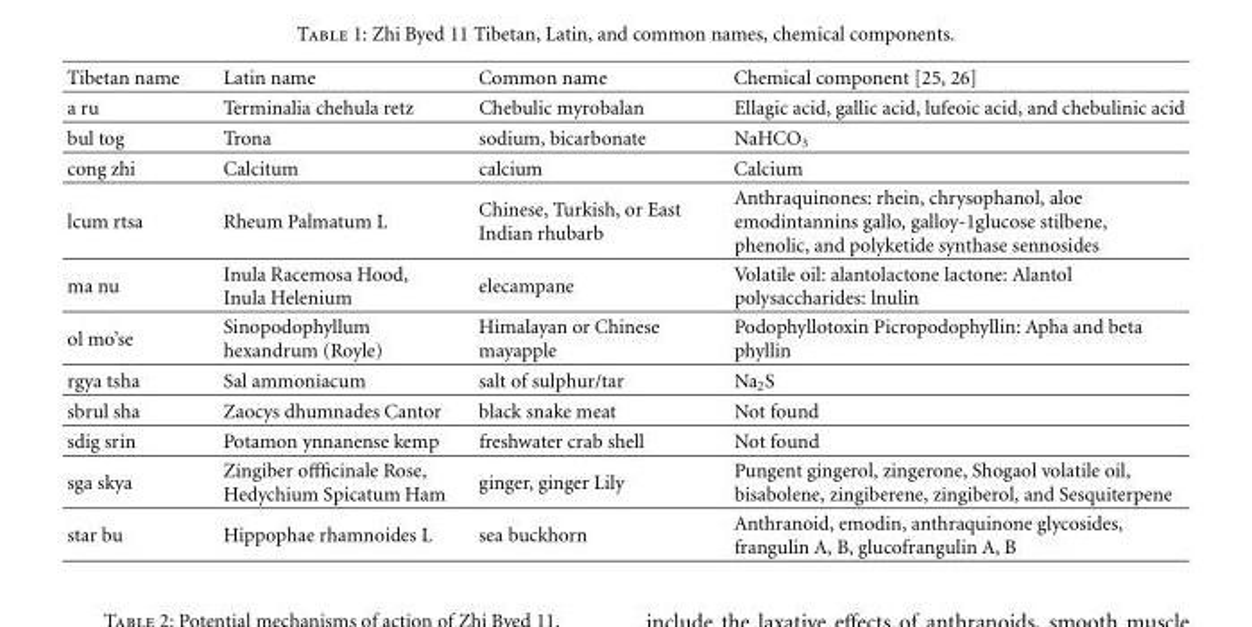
<table><thead><tr><td>Tibetan name</td><td>Latin name</td><td>Common name</td><td>Chemical component [25, 26]</td></tr></thead><tbody><tr><td>a ru</td><td>Terminalia chehula retz</td><td>Chebulic myrobalan</td><td>Ellagic acid, gallic acid, lufeoic acid, and chebulinic acid</td></tr><tr><td>bul tog</td><td>Trona</td><td>sodium, bicarbonate</td><td>NaHCO3</td></tr><tr><td>cong zhi</td><td>Calcitum</td><td>calcium</td><td>Calcium</td></tr><tr><td>lcum rtsa</td><td>Rheum Palmatum L</td><td>Chinese, Turkish, or East Indian rhubarb</td><td>Anthraquinones: rhein, chrysophanol, aloe emodintannins gallo, galloy-1glucose stilbene, phenolic, and polyketide synthase sennosides</td></tr><tr><td>ma nu</td><td>Inula Racemosa Hood, Inula Helenium</td><td>elecampane</td><td>Volatile oil: alantolactone lactone: Alantol polysaccharides: lnulin</td></tr><tr><td>ol mo’se</td><td>Sinopodophyllum hexandrum (Royle)</td><td>Himalayan or Chinese mayapple</td><td>Podophyllotoxin Picropodophyllin: Apha and beta phyllin</td></tr><tr><td>rgya tsha</td><td>Sal ammoniacum</td><td>salt of sulphur/tar</td><td>Na2S</td></tr><tr><td>sbrul sha</td><td>Zaocys dhumnades Cantor</td><td>black snake meat</td><td>Not found</td></tr><tr><td>sdig srin</td><td>Potamon ynnanense kemp</td><td>freshwater crab shell</td><td>Not found</td></tr><tr><td>sga skya</td><td>Zingiber offficinale Rose, Hedychium Spicatum Ham</td><td>ginger, ginger Lily</td><td>Pungent gingerol, zingerone, Shogaol volatile oil, bisabolene, zingiberene, zingiberol, and Sesquiterpene</td></tr><tr><td>star bu</td><td>Hippophae rhamnoides L</td><td>sea buckhorn</td><td>Anthranoid, emodin, anthraquinone glycosides, frangulin A, B, glucofrangulin A, B</td></tr></tbody></table>